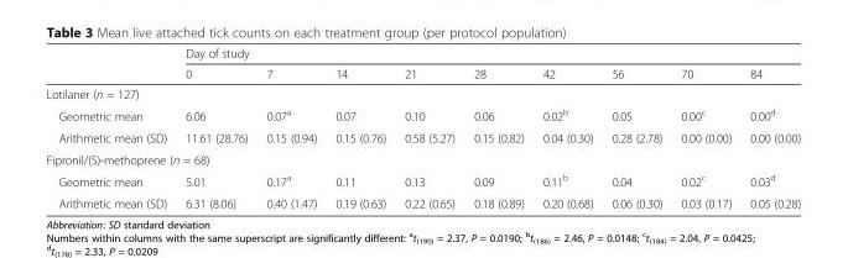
<table><thead><tr><td rowspan="2"></td><td colspan="9">Day of study</td></tr><tr><td>0</td><td>7</td><td>14</td><td>21</td><td>28</td><td>42</td><td>56</td><td>70</td><td>84</td></tr></thead><tbody><tr><td colspan="10">Lotilaner (n = 127)</td></tr><tr><td>Geometric mean</td><td>6.06</td><td>0.07<sup>a</sup></td><td>0.07</td><td>0.10</td><td>0.06</td><td>0.02<sup>b</sup></td><td>0.05</td><td>0.00<sup>c</sup></td><td>0.00<sup>d</sup></td></tr><tr><td>Arithmetic mean (SD)</td><td>11.61 (28.76)</td><td>0.15 (0.94)</td><td>0.15 (0.76)</td><td>0.58 (5.27)</td><td>0.15 (0.82)</td><td>0.04 (0.30)</td><td>0.28 (2.78)</td><td>0.00 (0.00)</td><td>0.00 (0.00)</td></tr><tr><td colspan="10">Fipronil/(S)-methoprene (n = 68)</td></tr><tr><td>Geometric mean</td><td>5.01</td><td>0.17<sup>a</sup></td><td>0.11</td><td>0.13</td><td>0.09</td><td>0.11<sup>b</sup></td><td>0.04</td><td>0.02<sup>c</sup></td><td>0.03<sup>d</sup></td></tr><tr><td>Arithmetic mean (SD)</td><td>6.31 (8.06)</td><td>0.40 (1.47)</td><td>0.19 (0.63)</td><td>0.22 (0.65)</td><td>0.18 (0.89)</td><td>0.20 (0.68)</td><td>0.06 (0.30)</td><td>0.03 (0.17)</td><td>0.05 (0.28)</td></tr></tbody></table>